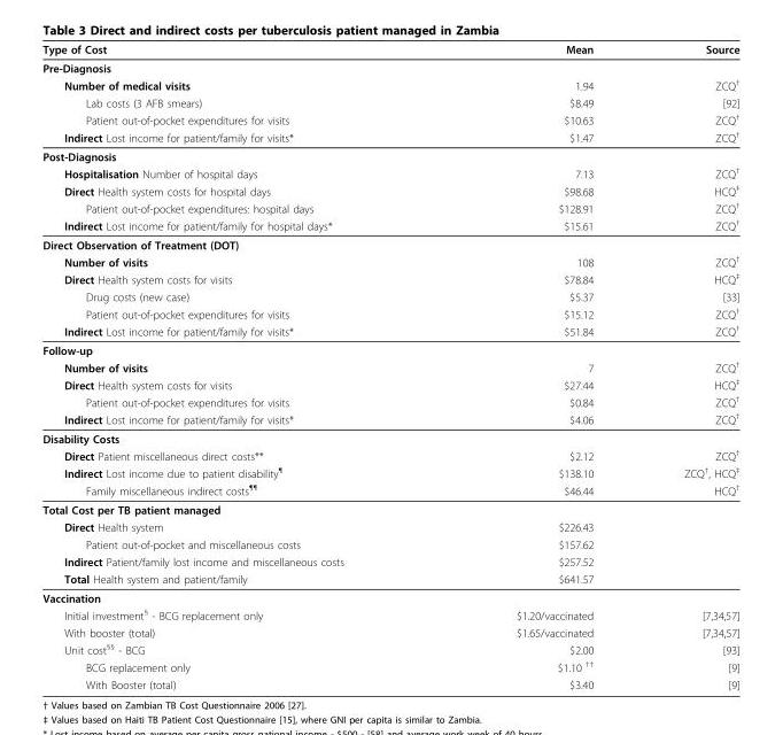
<table><thead><tr><td>Type of Cost</td><td>Mean</td><td>Source</td></tr></thead><tbody><tr><td colspan="3">Pre-Diagnosis</td></tr><tr><td>Number of medical visits</td><td>1.94</td><td>ZCQ<sup>†</sup></td></tr><tr><td>Lab costs (3 AFB smears)</td><td>$8.49</td><td>[92]</td></tr><tr><td>Patient out-of-pocket expenditures for visits</td><td>$10.63</td><td>ZCQ<sup>†</sup></td></tr><tr><td>Indirect Lost income for patient/family for visits*</td><td>$1.47</td><td>ZCQ<sup>†</sup></td></tr><tr><td colspan="3">Post-Diagnosis</td></tr><tr><td>Hospitalisation Number of hospital days</td><td>7.13</td><td>ZCQ<sup>†</sup></td></tr><tr><td>Direct Health system costs for hospital days</td><td>$98.68</td><td>HCQ<sup>‡</sup></td></tr><tr><td>Patient out-of-pocket expenditures: hospital days</td><td>$128.91</td><td>ZCQ<sup>†</sup></td></tr><tr><td>Indirect Lost income for patient/family for hospital days*</td><td>$15.61</td><td>ZCQ<sup>†</sup></td></tr><tr><td colspan="3">Direct Observation of Treatment (DOT)</td></tr><tr><td>Number of visits</td><td>108</td><td>ZCQ<sup>†</sup></td></tr><tr><td>Direct Health system costs for visits</td><td>$78.84</td><td>HCQ<sup>‡</sup></td></tr><tr><td>Drug costs (new case)</td><td>$5.37</td><td>[33]</td></tr><tr><td>Patient out-of-pocket expenditures for visits</td><td>$15.12</td><td>ZCQ<sup>†</sup></td></tr><tr><td>Indirect Lost income for patient/family for visits*</td><td>$51.84</td><td>ZCQ<sup>†</sup></td></tr><tr><td colspan="3">Follow-up</td></tr><tr><td>Number of visits</td><td>7</td><td>ZCQ<sup>†</sup></td></tr><tr><td>Direct Health system costs for visits</td><td>$27.44</td><td>HCQ<sup>‡</sup></td></tr><tr><td>Patient out-of-pocket expenditures for visits</td><td>$0.84</td><td>ZCQ<sup>†</sup></td></tr><tr><td>Indirect Lost income for patient/family for visits*</td><td>$4.06</td><td>ZCQ<sup>†</sup></td></tr><tr><td colspan="3">Disability Costs</td></tr><tr><td>Direct Patient miscellaneous direct costs**</td><td>$2.12</td><td>ZCQ<sup>†</sup></td></tr><tr><td>Indirect Lost income due to patient disability<sup>¶</sup></td><td>$138.10</td><td>ZCQ<sup>†</sup>, HCQ<sup>‡</sup></td></tr><tr><td>Family miscellaneous indirect costs<sup>¶¶</sup></td><td>$46.44</td><td>HCQ<sup>†</sup></td></tr><tr><td colspan="3">Total Cost per TB patient managed</td></tr><tr><td>Direct Health system</td><td>$226.43</td><td></td></tr><tr><td>Patient out-of-pocket and miscellaneous costs</td><td>$157.62</td><td></td></tr><tr><td>Indirect Patient/family lost income and miscellaneous costs</td><td>$257.52</td><td></td></tr><tr><td>Total Health system and patient/family</td><td>$641.57</td><td></td></tr><tr><td colspan="3">Vaccination</td></tr><tr><td>Initial investment<sup>§</sup> - BCG replacement only</td><td>$1.20/vaccinated</td><td>[7,34,57]</td></tr><tr><td>With booster (total)</td><td>$1.65/vaccinated</td><td>[7,34,57]</td></tr><tr><td>Unit cost<sup>§§</sup> - BCG</td><td>$2.00</td><td>[93]</td></tr><tr><td>BCG replacement only</td><td>$1.10 <sup>††</sup></td><td>[9]</td></tr><tr><td>With Booster (total)</td><td>$3.40</td><td>[9]</td></tr></tbody></table>